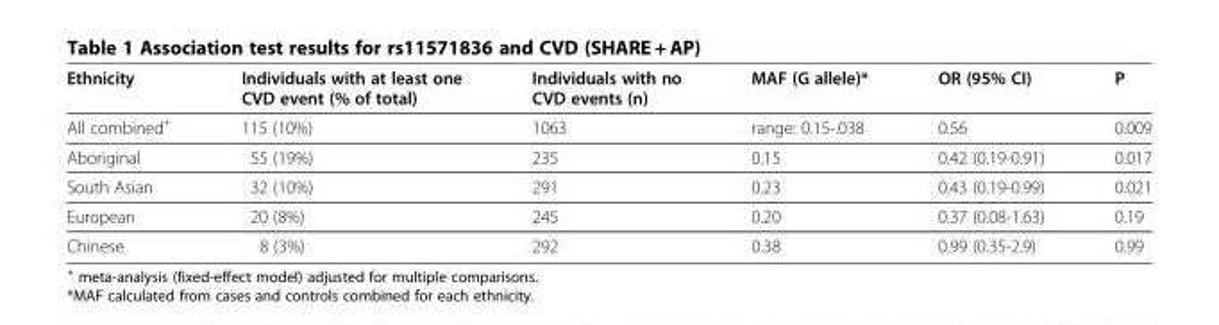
<table><thead><tr><td>Ethnicity</td><td>Individuals with at least one CVD event (% of total)</td><td>Individuals with no CVD events (n)</td><td>MAF (G allele)*</td><td>OR (95% CI)</td><td>P</td></tr></thead><tbody><tr><td>All combined<sup>+</sup></td><td>115 (10%)</td><td>1063</td><td>range: 0.15-.038</td><td>0.56</td><td>0.009</td></tr><tr><td>Aboriginal</td><td>55 (19%)</td><td>235</td><td>0.15</td><td>0.42 (0.19-0.91)</td><td>0.017</td></tr><tr><td>South Asian</td><td>32 (10%)</td><td>291</td><td>0.23</td><td>0.43 (0.19-0.99)</td><td>0.021</td></tr><tr><td>European</td><td>20 (8%)</td><td>245</td><td>0.20</td><td>0.37 (0.08-1.63)</td><td>0.19</td></tr><tr><td>Chinese</td><td>8 (3%)</td><td>292</td><td>0.38</td><td>0.99 (0.35-2.9)</td><td>0.99</td></tr></tbody></table>